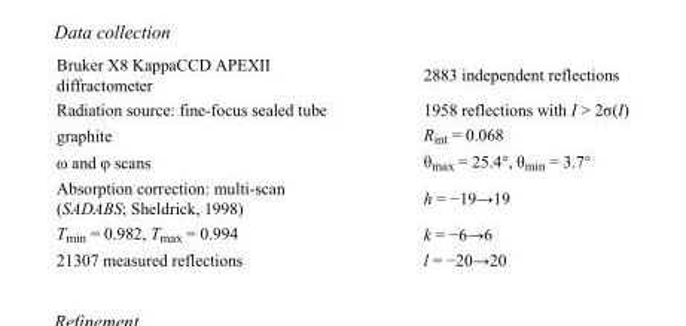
<table><tbody><tr><td>Bruker X8 KappaCCD APEXII diffractometer</td><td>2883 independent reflections</td></tr><tr><td>Radiation source: fine-focus sealed tube</td><td>1958 reflections with I &gt; 2σ(I)</td></tr><tr><td>graphite</td><td>R<sub>int</sub> = 0.068</td></tr><tr><td>ω and φ scans</td><td>θ<sub>max</sub> = 25.4°, θ<sub>min</sub> = 3.7°</td></tr><tr><td>Absorption correction: multi-scan (SADABS; Sheldrick, 1998)</td><td>h = −19→19</td></tr><tr><td>T<sub>min</sub> = 0.982, T<sub>max</sub> = 0.994</td><td>k = −6→6</td></tr><tr><td>21307 measured reflections</td><td>l = −20→20</td></tr></tbody></table>